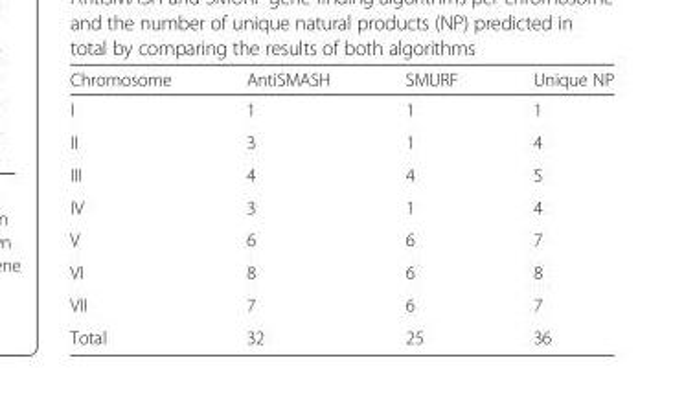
<table><thead><tr><td>Chromosome</td><td>AntiSMASH</td><td>SMURF</td><td>Unique NP</td></tr></thead><tbody><tr><td>I</td><td>1</td><td>1</td><td>1</td></tr><tr><td>II</td><td>3</td><td>1</td><td>4</td></tr><tr><td>III</td><td>4</td><td>4</td><td>5</td></tr><tr><td>IV</td><td>3</td><td>1</td><td>4</td></tr><tr><td>V</td><td>6</td><td>6</td><td>7</td></tr><tr><td>VI</td><td>8</td><td>6</td><td>8</td></tr><tr><td>VII</td><td>7</td><td>6</td><td>7</td></tr><tr><td>Total</td><td>32</td><td>25</td><td>36</td></tr></tbody></table>